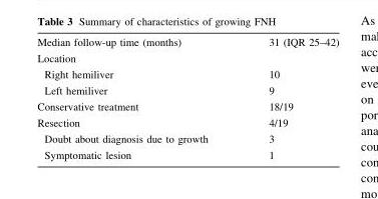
<table><tbody><tr><td>Median follow-up time (months)</td><td>31 (IQR 25–42)</td></tr><tr><td colspan="2">Location</td></tr><tr><td>Right hemiliver</td><td>10</td></tr><tr><td>Left hemiliver</td><td>9</td></tr><tr><td>Conservative treatment</td><td>18/19</td></tr><tr><td>Resection</td><td>4/19</td></tr><tr><td>Doubt about diagnosis due to growth</td><td>3</td></tr><tr><td>Symptomatic lesion</td><td>1</td></tr></tbody></table>